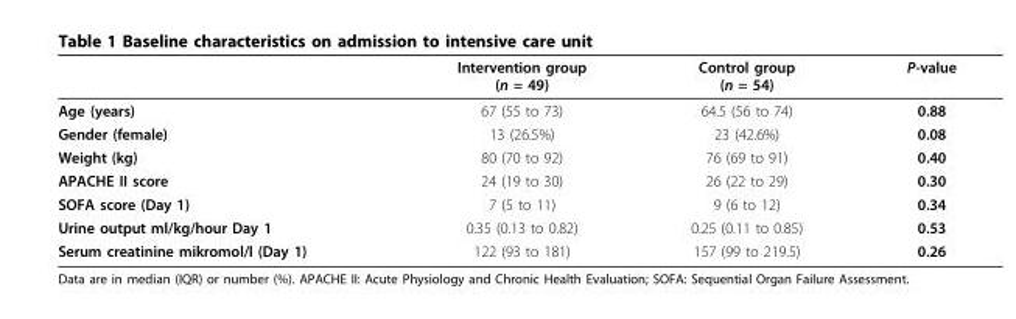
<table><thead><tr><td></td><td>Intervention group (n = 49)</td><td>Control group (n = 54)</td><td>P-value</td></tr></thead><tbody><tr><td>Age (years)</td><td>67 (55 to 73)</td><td>64.5 (56 to 74)</td><td>0.88</td></tr><tr><td>Gender (female)</td><td>13 (26.5%)</td><td>23 (42.6%)</td><td>0.08</td></tr><tr><td>Weight (kg)</td><td>80 (70 to 92)</td><td>76 (69 to 91)</td><td>0.40</td></tr><tr><td>APACHE II score</td><td>24 (19 to 30)</td><td>26 (22 to 29)</td><td>0.30</td></tr><tr><td>SOFA score (Day 1)</td><td>7 (5 to 11)</td><td>9 (6 to 12)</td><td>0.34</td></tr><tr><td>Urine output ml/kg/hour Day 1</td><td>0.35 (0.13 to 0.82)</td><td>0.25 (0.11 to 0.85)</td><td>0.53</td></tr><tr><td>Serum creatinine mikromol/l (Day 1)</td><td>122 (93 to 181)</td><td>157 (99 to 219.5)</td><td>0.26</td></tr></tbody></table>